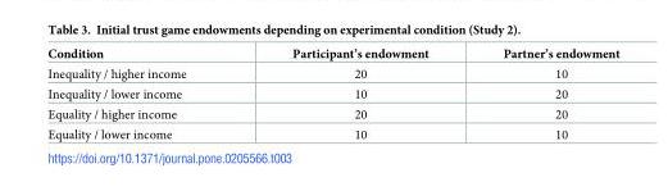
<table><thead><tr><td>Condition</td><td>Participant’s endowment</td><td>Partner’s endowment</td></tr></thead><tbody><tr><td>Inequality / higher income</td><td>20</td><td>10</td></tr><tr><td>Inequality / lower income</td><td>10</td><td>20</td></tr><tr><td>Equality / higher income</td><td>20</td><td>20</td></tr><tr><td>Equality / lower income</td><td>10</td><td>10</td></tr></tbody></table>